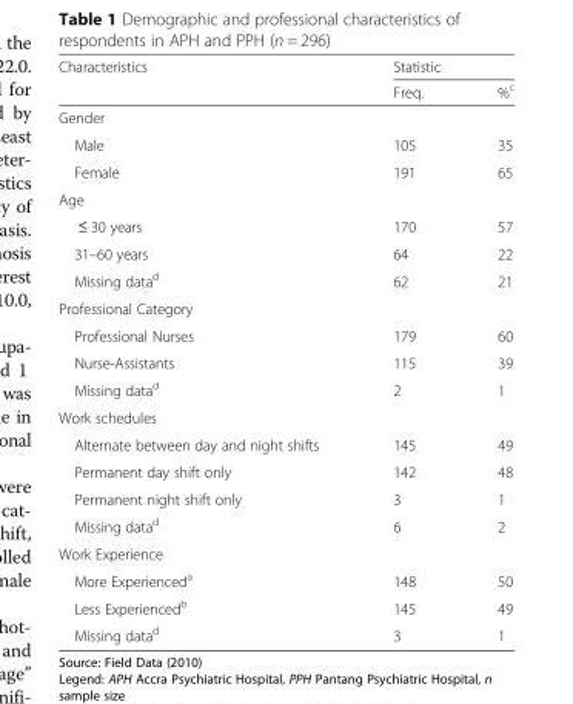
<table><thead><tr><td rowspan="2">Characteristics</td><td colspan="2">Statistic</td></tr><tr><td>Freq.</td><td>%<sup>c</sup></td></tr></thead><tbody><tr><td colspan="3">Gender</td></tr><tr><td>Male</td><td>105</td><td>35</td></tr><tr><td>Female</td><td>191</td><td>65</td></tr><tr><td colspan="3">Age</td></tr><tr><td>≤ 30 years</td><td>170</td><td>57</td></tr><tr><td>31–60 years</td><td>64</td><td>22</td></tr><tr><td>Missing data<sup>d</sup></td><td>62</td><td>21</td></tr><tr><td colspan="3">Professional Category</td></tr><tr><td>Professional Nurses</td><td>179</td><td>60</td></tr><tr><td>Nurse-Assistants</td><td>115</td><td>39</td></tr><tr><td>Missing data<sup>d</sup></td><td>2</td><td>1</td></tr><tr><td colspan="3">Work schedules</td></tr><tr><td>Alternate between day and night shifts</td><td>145</td><td>49</td></tr><tr><td>Permanent day shift only</td><td>142</td><td>48</td></tr><tr><td>Permanent night shift only</td><td>3</td><td>1</td></tr><tr><td>Missing data<sup>d</sup></td><td>6</td><td>2</td></tr><tr><td colspan="3">Work Experience</td></tr><tr><td>More Experienced<sup>a</sup></td><td>148</td><td>50</td></tr><tr><td>Less Experienced<sup>b</sup></td><td>145</td><td>49</td></tr><tr><td>Missing data<sup>d</sup></td><td>3</td><td>1</td></tr></tbody></table>